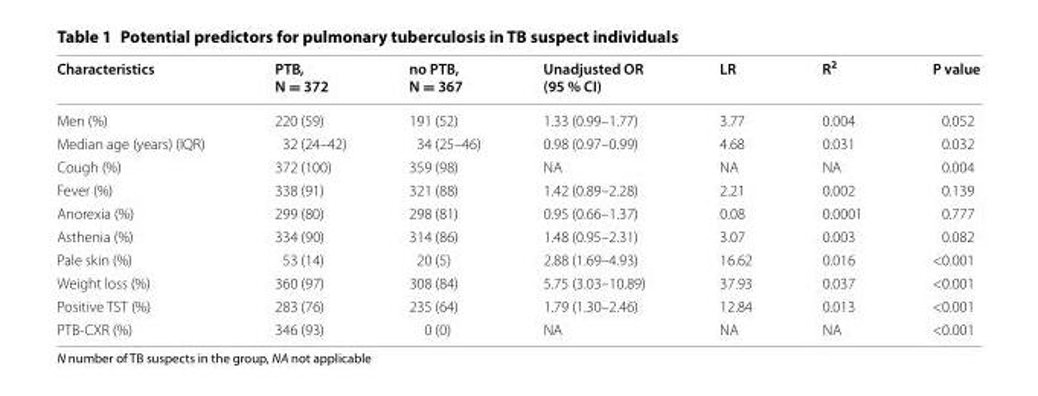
<table><thead><tr><td>Characteristics</td><td>PTB, N = 372</td><td>no PTB, N = 367</td><td>Unadjusted OR (95 % CI)</td><td>LR</td><td>R<sup>2</sup></td><td>P value</td></tr></thead><tbody><tr><td>Men (%)</td><td>220 (59)</td><td>191 (52)</td><td>1.33 (0.99–1.77)</td><td>3.77</td><td>0.004</td><td>0.052</td></tr><tr><td>Median age (years) (IQR)</td><td>32 (24–42)</td><td>34 (25–46)</td><td>0.98 (0.97–0.99)</td><td>4.68</td><td>0.031</td><td>0.032</td></tr><tr><td>Cough (%)</td><td>372 (100)</td><td>359 (98)</td><td>NA</td><td>NA</td><td>NA</td><td>0.004</td></tr><tr><td>Fever (%)</td><td>338 (91)</td><td>321 (88)</td><td>1.42 (0.89–2.28)</td><td>2.21</td><td>0.002</td><td>0.139</td></tr><tr><td>Anorexia (%)</td><td>299 (80)</td><td>298 (81)</td><td>0.95 (0.66–1.37)</td><td>0.08</td><td>0.0001</td><td>0.777</td></tr><tr><td>Asthenia (%)</td><td>334 (90)</td><td>314 (86)</td><td>1.48 (0.95–2.31)</td><td>3.07</td><td>0.003</td><td>0.082</td></tr><tr><td>Pale skin (%)</td><td>53 (14)</td><td>20 (5)</td><td>2.88 (1.69–4.93)</td><td>16.62</td><td>0.016</td><td>&lt;0.001</td></tr><tr><td>Weight loss (%)</td><td>360 (97)</td><td>308 (84)</td><td>5.75 (3.03–10.89)</td><td>37.93</td><td>0.037</td><td>&lt;0.001</td></tr><tr><td>Positive TST (%)</td><td>283 (76)</td><td>235 (64)</td><td>1.79 (1.30–2.46)</td><td>12.84</td><td>0.013</td><td>&lt;0.001</td></tr><tr><td>PTB-CXR (%)</td><td>346 (93)</td><td>0 (0)</td><td>NA</td><td>NA</td><td>NA</td><td>&lt;0.001</td></tr></tbody></table>